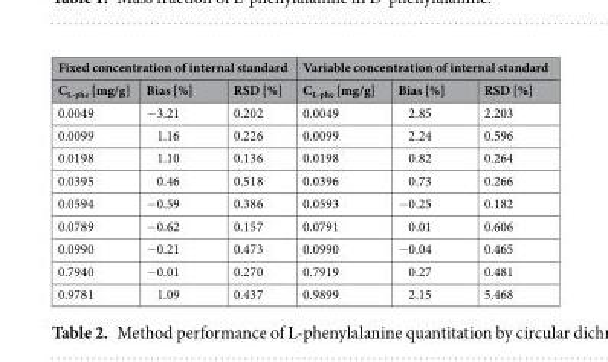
<table><thead><tr><td colspan="3">Fixed concentration of internal standard</td><td colspan="3">Variable concentration of internal standard</td></tr><tr><td>C<sub>L-phe</sub> [mg/g]</td><td>Bias [%]</td><td>RSD [%]</td><td>C<sub>L-phe</sub> [mg/g]</td><td>Bias [%]</td><td>RSD [%]</td></tr></thead><tbody><tr><td>0.0049</td><td>−3.21</td><td>0.202</td><td>0.0049</td><td>2.85</td><td>2.203</td></tr><tr><td>0.0099</td><td>1.16</td><td>0.226</td><td>0.0099</td><td>2.24</td><td>0.596</td></tr><tr><td>0.0198</td><td>1.10</td><td>0.136</td><td>0.0198</td><td>0.82</td><td>0.264</td></tr><tr><td>0.0395</td><td>0.46</td><td>0.518</td><td>0.0396</td><td>0.73</td><td>0.266</td></tr><tr><td>0.0594</td><td>−0.59</td><td>0.386</td><td>0.0593</td><td>−0.25</td><td>0.182</td></tr><tr><td>0.0789</td><td>−0.62</td><td>0.157</td><td>0.0791</td><td>0.01</td><td>0.606</td></tr><tr><td>0.0990</td><td>−0.21</td><td>0.473</td><td>0.0990</td><td>−0.04</td><td>0.465</td></tr><tr><td>0.7940</td><td>−0.01</td><td>0.270</td><td>0.7919</td><td>0.27</td><td>0.481</td></tr><tr><td>0.9781</td><td>1.09</td><td>0.437</td><td>0.9899</td><td>2.15</td><td>5.468</td></tr></tbody></table>